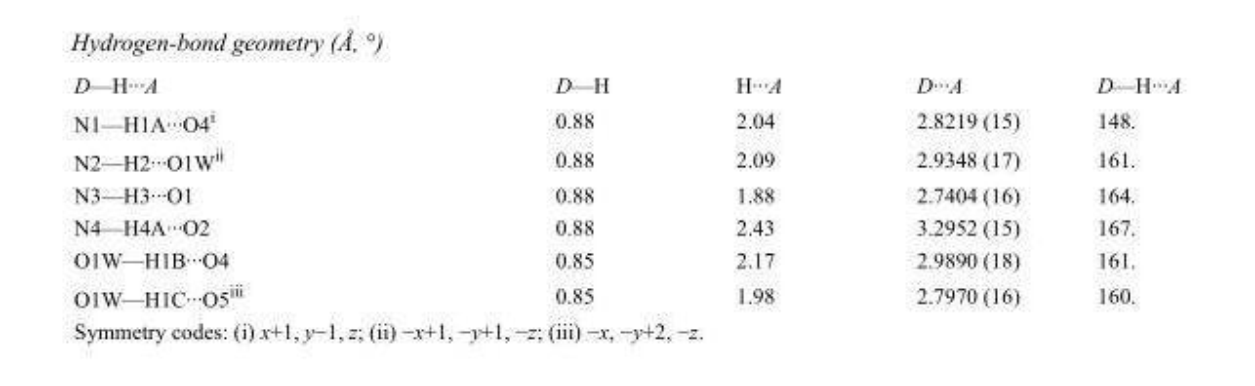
<table><tbody><tr><td>D—H···A</td><td>D—H</td><td>H···A</td><td>D···A</td><td>D—H···A</td></tr><tr><td>N1—H1A···O4<sup>i</sup></td><td>0.88</td><td>2.04</td><td>2.8219 (15)</td><td>148.</td></tr><tr><td>N2—H2···O1W<sup>ii</sup></td><td>0.88</td><td>2.09</td><td>2.9348 (17)</td><td>161.</td></tr><tr><td>N3—H3···O1</td><td>0.88</td><td>1.88</td><td>2.7404 (16)</td><td>164.</td></tr><tr><td>N4—H4A···O2</td><td>0.88</td><td>2.43</td><td>3.2952 (15)</td><td>167.</td></tr><tr><td>O1W—H1B···O4</td><td>0.85</td><td>2.17</td><td>2.9890 (18)</td><td>161.</td></tr><tr><td>O1W—H1C···O5<sup>iii</sup></td><td>0.85</td><td>1.98</td><td>2.7970 (16)</td><td>160.</td></tr></tbody></table>